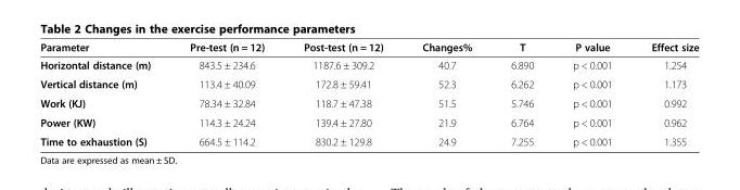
<table><thead><tr><td>Parameter</td><td>Pre-test (n = 12)</td><td>Post-test (n = 12)</td><td>Changes%</td><td>T</td><td>P value</td><td>Effect size</td></tr></thead><tbody><tr><td>Horizontal distance (m)</td><td>843.5 ± 234.6</td><td>1187.6 ± 309.2</td><td>40.7</td><td>6.890</td><td>p &lt; 0.001</td><td>1.254</td></tr><tr><td>Vertical distance (m)</td><td>113.4 ± 40.09</td><td>172.8 ± 59.41</td><td>52.3</td><td>6.262</td><td>p &lt; 0.001</td><td>1.173</td></tr><tr><td>Work (KJ)</td><td>78.34 ± 32.84</td><td>118.7 ± 47.38</td><td>51.5</td><td>5.746</td><td>p &lt; 0.001</td><td>0.992</td></tr><tr><td>Power (KW)</td><td>114.3 ± 24.24</td><td>139.4 ± 27.80</td><td>21.9</td><td>6.764</td><td>p &lt; 0.001</td><td>0.962</td></tr><tr><td>Time to exhaustion (S)</td><td>664.5 ± 114.2</td><td>830.2 ± 129.8</td><td>24.9</td><td>7.255</td><td>p &lt; 0.001</td><td>1.355</td></tr></tbody></table>